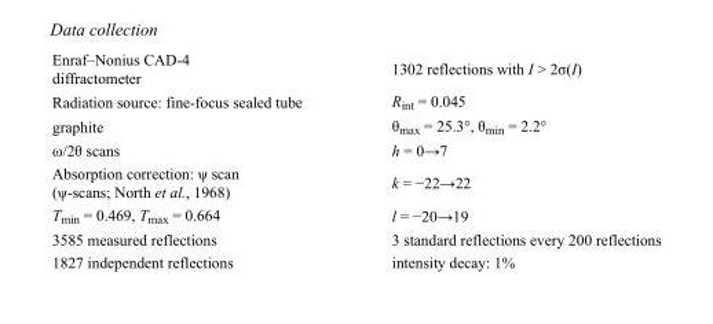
<table><tbody><tr><td>Enraf–Nonius CAD-4 diffractometer</td><td>1302 reflections with I &gt; 2σ(I)</td></tr><tr><td>Radiation source: fine-focus sealed tube</td><td>R<sub>int</sub> = 0.045</td></tr><tr><td>graphite</td><td>θ<sub>max</sub> = 25.3°, θ<sub>min</sub> = 2.2°</td></tr><tr><td>ω/2θ scans</td><td>h = 0→7</td></tr><tr><td>Absorption correction: ψ scan (ψ-scans; North et al., 1968)</td><td>k = −22→22</td></tr><tr><td>T<sub>min</sub> = 0.469, T<sub>max</sub> = 0.664</td><td>l = −20→19</td></tr><tr><td>3585 measured reflections</td><td>3 standard reflections every 200 reflections</td></tr><tr><td>1827 independent reflections</td><td>intensity decay: 1%</td></tr></tbody></table>